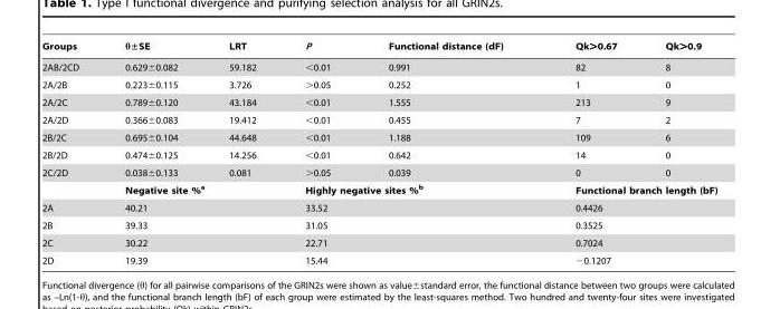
<table><thead><tr><td>Groups</td><td>θ±SE</td><td>LRT</td><td>P</td><td>Functional distance (dF)</td><td>Qk&gt;0.67</td><td>Qk&gt;0.9</td></tr></thead><tbody><tr><td>2AB/2CD</td><td>0.629±0.082</td><td>59.182</td><td>&lt;0.01</td><td>0.991</td><td>82</td><td>8</td></tr><tr><td>2A/2B</td><td>0.223±0.115</td><td>3.726</td><td>&gt;0.05</td><td>0.252</td><td>1</td><td>0</td></tr><tr><td>2A/2C</td><td>0.789±0.120</td><td>43.184</td><td>&lt;0.01</td><td>1.555</td><td>213</td><td>9</td></tr><tr><td>2A/2D</td><td>0.366±0.083</td><td>19.412</td><td>&lt;0.01</td><td>0.455</td><td>7</td><td>2</td></tr><tr><td>2B/2C</td><td>0.695±0.104</td><td>44.648</td><td>&lt;0.01</td><td>1.188</td><td>109</td><td>6</td></tr><tr><td>2B/2D</td><td>0.474±0.125</td><td>14.256</td><td>&lt;0.01</td><td>0.642</td><td>14</td><td>0</td></tr><tr><td rowspan="2">2C/2D</td><td>0.038±0.133</td><td>0.081</td><td>&gt;0.05</td><td>0.039</td><td>0</td><td>0</td></tr><tr><td colspan="2">Negative site %a</td><td colspan="2">Highly negative sites %b</td><td colspan="2">Functional branch length (bF)</td></tr><tr><td>2A</td><td colspan="2">40.21</td><td colspan="2">33.52</td><td colspan="2">0.4426</td></tr><tr><td>2B</td><td colspan="2">39.33</td><td colspan="2">31.05</td><td colspan="2">0.3525</td></tr><tr><td>2C</td><td colspan="2">30.22</td><td colspan="2">22.71</td><td colspan="2">0.7024</td></tr><tr><td>2D</td><td colspan="2">19.39</td><td colspan="2">15.44</td><td colspan="2">−0.1207</td></tr></tbody></table>